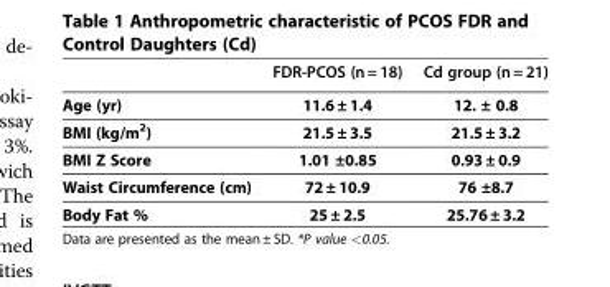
<table><thead><tr><td></td><td>FDR-PCOS (n = 18)</td><td>Cd group (n = 21)</td></tr></thead><tbody><tr><td>Age (yr)</td><td>11.6 ± 1.4</td><td>12. ± 0.8</td></tr><tr><td>BMI (kg/m<sup>2</sup>)</td><td>21.5 ± 3.5</td><td>21.5 ± 3.2</td></tr><tr><td>BMI Z Score</td><td>1.01 ±0.85</td><td>0.93 ± 0.9</td></tr><tr><td>Waist Circumference (cm)</td><td>72 ± 10.9</td><td>76 ±8.7</td></tr><tr><td>Body Fat %</td><td>25 ± 2.5</td><td>25.76 ± 3.2</td></tr></tbody></table>